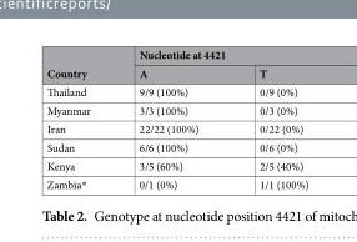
<table><thead><tr><td rowspan="2">Country</td><td colspan="2">Nucleotide at 4421</td></tr><tr><td>A</td><td>T</td></tr></thead><tbody><tr><td>Thailand</td><td>9/9 (100%)</td><td>0/9 (0%)</td></tr><tr><td>Myanmar</td><td>3/3 (100%)</td><td>0/3 (0%)</td></tr><tr><td>Iran</td><td>22/22 (100%)</td><td>0/22 (0%)</td></tr><tr><td>Sudan</td><td>6/6 (100%)</td><td>0/6 (0%)</td></tr><tr><td>Kenya</td><td>3/5 (60%)</td><td>2/5 (40%)</td></tr><tr><td>Zambia*</td><td>0/1 (0%)</td><td>1/1 (100%)</td></tr></tbody></table>